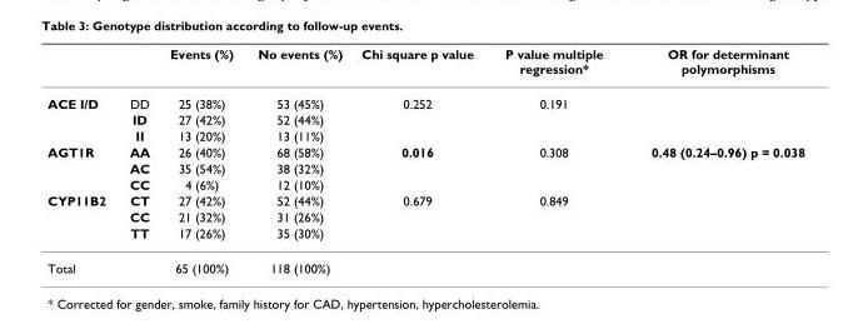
<table><thead><tr><td></td><td></td><td>Events (%)</td><td>No events (%)</td><td>Chi square p value</td><td>P value multiple regression*</td><td>OR for determinant polymorphisms</td></tr></thead><tbody><tr><td rowspan="3">ACE I/D</td><td>DD</td><td>25 (38%)</td><td>53 (45%)</td><td>0.252</td><td>0.191</td><td></td></tr><tr><td>ID</td><td>27 (42%)</td><td>52 (44%)</td><td></td><td></td><td></td></tr><tr><td>II</td><td>13 (20%)</td><td>13 (11%)</td><td></td><td></td><td></td></tr><tr><td rowspan="3">AGT1R</td><td>AA</td><td>26 (40%)</td><td>68 (58%)</td><td>0.016</td><td>0.308</td><td>0.48 (0.24–0.96) p = 0.038</td></tr><tr><td>AC</td><td>35 (54%)</td><td>38 (32%)</td><td></td><td></td><td></td></tr><tr><td>CC</td><td>4 (6%)</td><td>12 (10%)</td><td></td><td></td><td></td></tr><tr><td rowspan="3">CYP11B2</td><td>CT</td><td>27 (42%)</td><td>52 (44%)</td><td>0.679</td><td>0.849</td><td></td></tr><tr><td>CC</td><td>21 (32%)</td><td>31 (26%)</td><td></td><td></td><td></td></tr><tr><td>TT</td><td>17 (26%)</td><td>35 (30%)</td><td></td><td></td><td></td></tr><tr><td colspan="2">Total</td><td>65 (100%)</td><td>118 (100%)</td><td></td><td></td><td></td></tr></tbody></table>